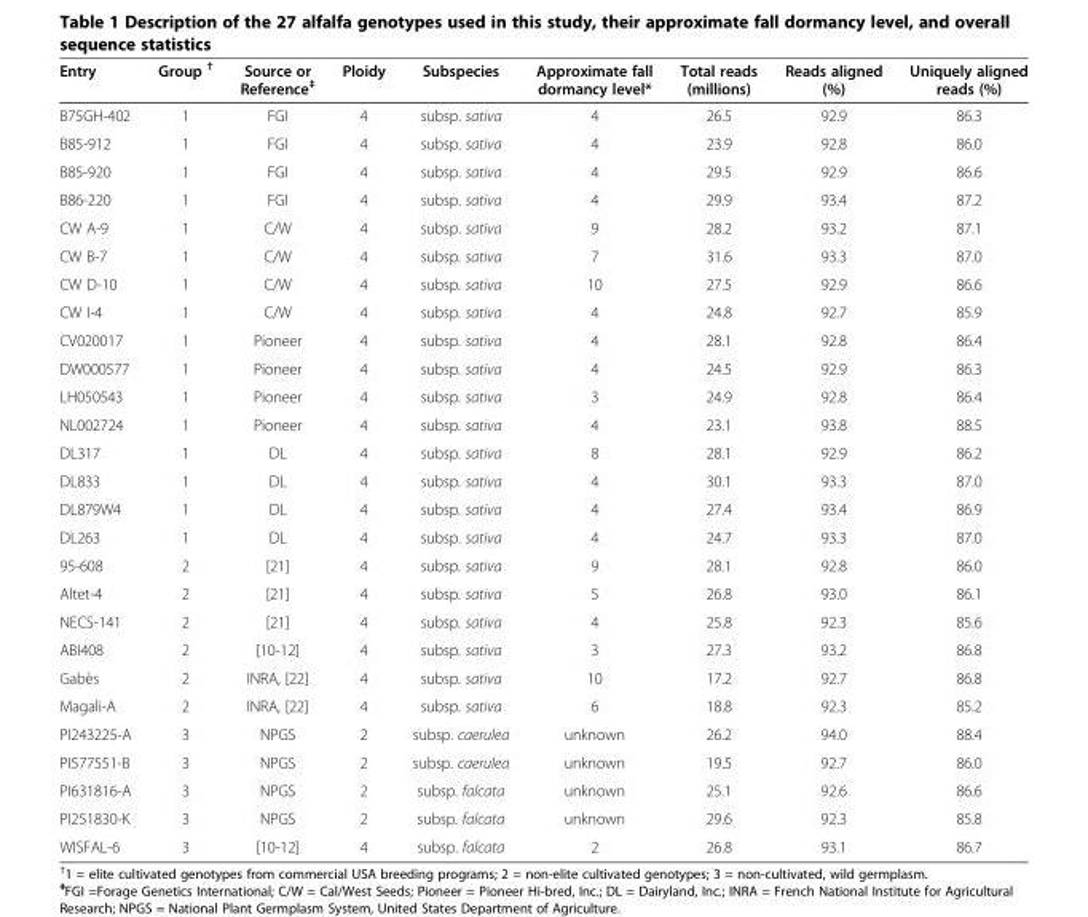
<table><thead><tr><td>Entry</td><td>Group <sup>†</sup></td><td>Source or Reference<sup>‡</sup></td><td>Ploidy</td><td>Subspecies</td><td>Approximate fall dormancy level*</td><td>Total reads (millions)</td><td>Reads aligned (%)</td><td>Uniquely aligned reads (%)</td></tr></thead><tbody><tr><td>B75GH-402</td><td>1</td><td>FGI</td><td>4</td><td>subsp. sativa</td><td>4</td><td>26.5</td><td>92.9</td><td>86.3</td></tr><tr><td>B85-912</td><td>1</td><td>FGI</td><td>4</td><td>subsp. sativa</td><td>4</td><td>23.9</td><td>92.8</td><td>86.0</td></tr><tr><td>B85-920</td><td>1</td><td>FGI</td><td>4</td><td>subsp. sativa</td><td>4</td><td>29.5</td><td>92.9</td><td>86.6</td></tr><tr><td>B86-220</td><td>1</td><td>FGI</td><td>4</td><td>subsp. sativa</td><td>4</td><td>29.9</td><td>93.4</td><td>87.2</td></tr><tr><td>CW A-9</td><td>1</td><td>C/W</td><td>4</td><td>subsp. sativa</td><td>9</td><td>28.2</td><td>93.2</td><td>87.1</td></tr><tr><td>CW B-7</td><td>1</td><td>C/W</td><td>4</td><td>subsp. sativa</td><td>7</td><td>31.6</td><td>93.3</td><td>87.0</td></tr><tr><td>CW D-10</td><td>1</td><td>C/W</td><td>4</td><td>subsp. sativa</td><td>10</td><td>27.5</td><td>92.9</td><td>86.6</td></tr><tr><td>CW I-4</td><td>1</td><td>C/W</td><td>4</td><td>subsp. sativa</td><td>4</td><td>24.8</td><td>92.7</td><td>85.9</td></tr><tr><td>CV020017</td><td>1</td><td>Pioneer</td><td>4</td><td>subsp. sativa</td><td>4</td><td>28.1</td><td>92.8</td><td>86.4</td></tr><tr><td>DW000577</td><td>1</td><td>Pioneer</td><td>4</td><td>subsp. sativa</td><td>4</td><td>24.5</td><td>92.9</td><td>86.3</td></tr><tr><td>LH050543</td><td>1</td><td>Pioneer</td><td>4</td><td>subsp. sativa</td><td>3</td><td>24.9</td><td>92.8</td><td>86.4</td></tr><tr><td>NL002724</td><td>1</td><td>Pioneer</td><td>4</td><td>subsp. sativa</td><td>4</td><td>23.1</td><td>93.8</td><td>88.5</td></tr><tr><td>DL317</td><td>1</td><td>DL</td><td>4</td><td>subsp. sativa</td><td>8</td><td>28.1</td><td>92.9</td><td>86.2</td></tr><tr><td>DL833</td><td>1</td><td>DL</td><td>4</td><td>subsp. sativa</td><td>4</td><td>30.1</td><td>93.3</td><td>87.0</td></tr><tr><td>DL879W4</td><td>1</td><td>DL</td><td>4</td><td>subsp. sativa</td><td>4</td><td>27.4</td><td>93.4</td><td>86.9</td></tr><tr><td>DL263</td><td>1</td><td>DL</td><td>4</td><td>subsp. sativa</td><td>4</td><td>24.7</td><td>93.3</td><td>87.0</td></tr><tr><td>95-608</td><td>2</td><td>[21]</td><td>4</td><td>subsp. sativa</td><td>9</td><td>28.1</td><td>92.8</td><td>86.0</td></tr><tr><td>Altet-4</td><td>2</td><td>[21]</td><td>4</td><td>subsp. sativa</td><td>5</td><td>26.8</td><td>93.0</td><td>86.1</td></tr><tr><td>NECS-141</td><td>2</td><td>[21]</td><td>4</td><td>subsp. sativa</td><td>4</td><td>25.8</td><td>92.3</td><td>85.6</td></tr><tr><td>ABI408</td><td>2</td><td>[10-12]</td><td>4</td><td>subsp. sativa</td><td>3</td><td>27.3</td><td>93.2</td><td>86.8</td></tr><tr><td>Gabès</td><td>2</td><td>INRA, [22]</td><td>4</td><td>subsp. sativa</td><td>10</td><td>17.2</td><td>92.7</td><td>86.8</td></tr><tr><td>Magali-A</td><td>2</td><td>INRA, [22]</td><td>4</td><td>subsp. sativa</td><td>6</td><td>18.8</td><td>92.3</td><td>85.2</td></tr><tr><td>PI243225-A</td><td>3</td><td>NPGS</td><td>2</td><td>subsp. caerulea</td><td>unknown</td><td>26.2</td><td>94.0</td><td>88.4</td></tr><tr><td>PI577551-B</td><td>3</td><td>NPGS</td><td>2</td><td>subsp. caerulea</td><td>unknown</td><td>19.5</td><td>92.7</td><td>86.0</td></tr><tr><td>PI631816-A</td><td>3</td><td>NPGS</td><td>2</td><td>subsp. falcata</td><td>unknown</td><td>25.1</td><td>92.6</td><td>86.6</td></tr><tr><td>PI251830-K</td><td>3</td><td>NPGS</td><td>2</td><td>subsp. falcata</td><td>unknown</td><td>29.6</td><td>92.3</td><td>85.8</td></tr><tr><td>WISFAL-6</td><td>3</td><td>[10-12]</td><td>4</td><td>subsp. falcata</td><td>2</td><td>26.8</td><td>93.1</td><td>86.7</td></tr></tbody></table>